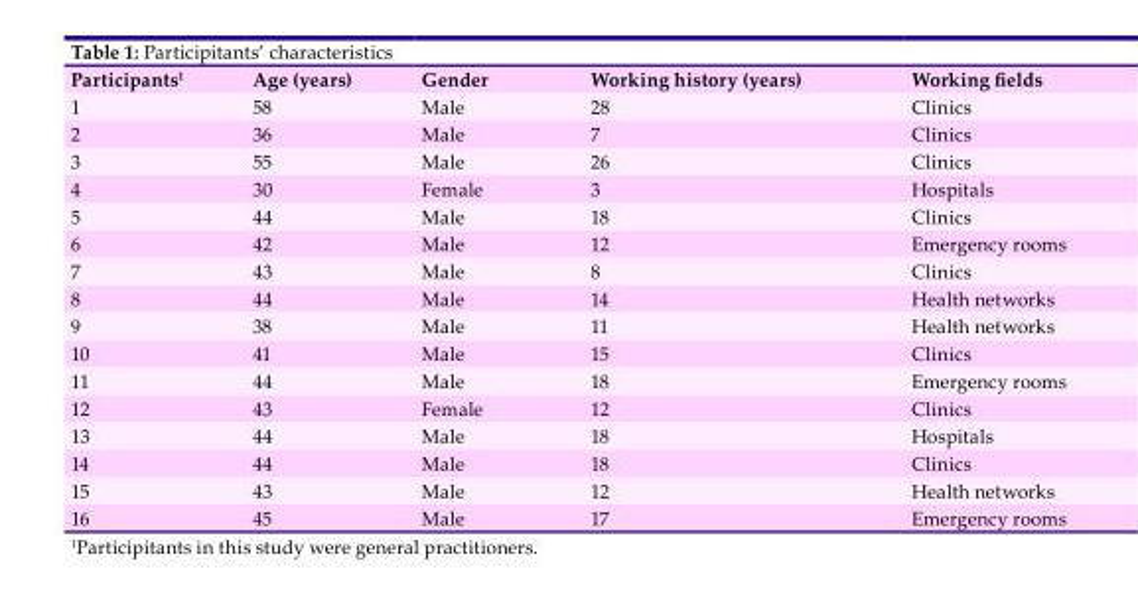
<table><thead><tr><td>Participants1</td><td>Age (years)</td><td>Gender</td><td>Working history (years)</td><td>Working fields</td></tr></thead><tbody><tr><td>1</td><td>58</td><td>Male</td><td>28</td><td>Clinics</td></tr><tr><td>2</td><td>36</td><td>Male</td><td>7</td><td>Clinics</td></tr><tr><td>3</td><td>55</td><td>Male</td><td>26</td><td>Clinics</td></tr><tr><td>4</td><td>30</td><td>Female</td><td>3</td><td>Hospitals</td></tr><tr><td>5</td><td>44</td><td>Male</td><td>18</td><td>Clinics</td></tr><tr><td>6</td><td>42</td><td>Male</td><td>12</td><td>Emergency rooms</td></tr><tr><td>7</td><td>43</td><td>Male</td><td>8</td><td>Clinics</td></tr><tr><td>8</td><td>44</td><td>Male</td><td>14</td><td>Health networks</td></tr><tr><td>9</td><td>38</td><td>Male</td><td>11</td><td>Health networks</td></tr><tr><td>10</td><td>41</td><td>Male</td><td>15</td><td>Clinics</td></tr><tr><td>11</td><td>44</td><td>Male</td><td>18</td><td>Emergency rooms</td></tr><tr><td>12</td><td>43</td><td>Female</td><td>12</td><td>Clinics</td></tr><tr><td>13</td><td>44</td><td>Male</td><td>18</td><td>Hospitals</td></tr><tr><td>14 15 16</td><td>44 43 45</td><td>Male Male Male</td><td>18 12 17</td><td>Clinics Health networks Emergency rooms</td></tr></tbody></table>